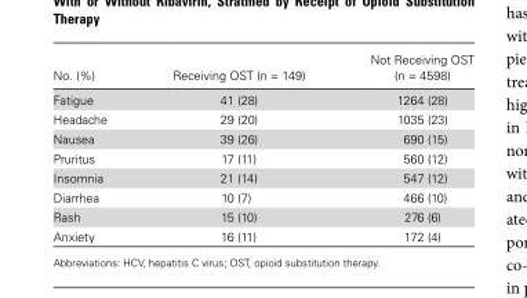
<table><thead><tr><td>No. (%)</td><td>Receiving OST (n = 149)</td><td>Not Receiving OST (n = 4598)</td></tr></thead><tbody><tr><td>Fatigue</td><td>41 (28)</td><td>1264 (28)</td></tr><tr><td>Headache</td><td>29 (20)</td><td>1035 (23)</td></tr><tr><td>Nausea</td><td>39 (26)</td><td>690 (15)</td></tr><tr><td>Pruritus</td><td>17 (11)</td><td>560 (12)</td></tr><tr><td>Insomnia</td><td>21 (14)</td><td>547 (12)</td></tr><tr><td>Diarrhea</td><td>10 (7)</td><td>466 (10)</td></tr><tr><td>Rash</td><td>15 (10)</td><td>276 (6)</td></tr><tr><td>Anxiety</td><td>16 (11)</td><td>172 (4)</td></tr></tbody></table>